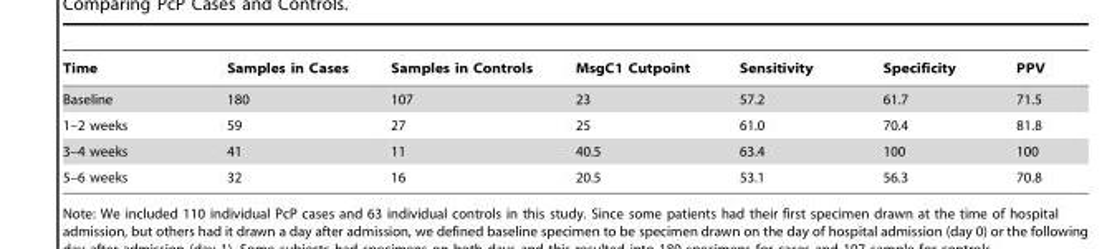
<table><thead><tr><td>Time</td><td>Samples in Cases</td><td>Samples in Controls</td><td>MsgC1 Cutpoint</td><td>Sensitivity</td><td>Specificity</td><td>PPV</td></tr></thead><tbody><tr><td>Baseline</td><td>180</td><td>107</td><td>23</td><td>57.2</td><td>61.7</td><td>71.5</td></tr><tr><td>1–2 weeks</td><td>59</td><td>27</td><td>25</td><td>61.0</td><td>70.4</td><td>81.8</td></tr><tr><td>3–4 weeks</td><td>41</td><td>11</td><td>40.5</td><td>63.4</td><td>100</td><td>100</td></tr><tr><td>5–6 weeks</td><td>32</td><td>16</td><td>20.5</td><td>53.1</td><td>56.3</td><td>70.8</td></tr></tbody></table>